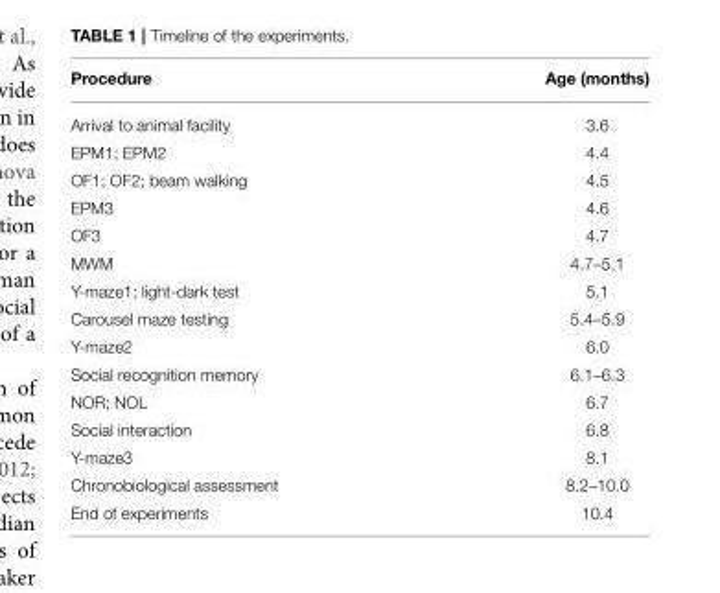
<table><thead><tr><td>Procedure</td><td>Age (months)</td></tr></thead><tbody><tr><td>Arrival to animal facility</td><td>3.6</td></tr><tr><td>EPM1; EPM2</td><td>4.4</td></tr><tr><td>OF1; OF2; beam walking</td><td>4.5</td></tr><tr><td>EPM3</td><td>4.6</td></tr><tr><td>OF3</td><td>4.7</td></tr><tr><td>MWM</td><td>4.7–5.1</td></tr><tr><td>Y-maze1; light-dark test</td><td>5.1</td></tr><tr><td>Carousel maze testing</td><td>5.4–5.9</td></tr><tr><td>Y-maze2</td><td>6.0</td></tr><tr><td>Social recognition memory</td><td>6.1–6.3</td></tr><tr><td>NOR; NOL</td><td>6.7</td></tr><tr><td>Social interaction</td><td>6.8</td></tr><tr><td>Y-maze3</td><td>8.1</td></tr><tr><td>Chronobiological assessment</td><td>8.2–10.0</td></tr><tr><td>End of experiments</td><td>10.4</td></tr></tbody></table>